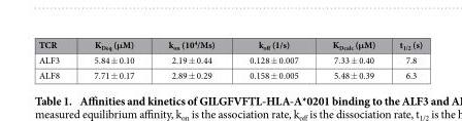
<table><thead><tr><td>TCR</td><td>K<sub>Deq</sub> (μM)</td><td>k<sub>on</sub> (10<sup>4</sup>/Ms)</td><td>k<sub>off</sub> (1/s)</td><td>K<sub>Dcalc</sub> (μM)</td><td>t<sub>1/2</sub> (s)</td></tr></thead><tbody><tr><td>ALF3</td><td>5.84 ± 0.10</td><td>2.19 ± 0.44</td><td>0.128 ± 0.007</td><td>7.33 ± 0.40</td><td>7.8</td></tr><tr><td>ALF8</td><td>7.71 ± 0.17</td><td>2.89 ± 0.29</td><td>0.158 ± 0.005</td><td>5.48 ± 0.39</td><td>6.3</td></tr></tbody></table>